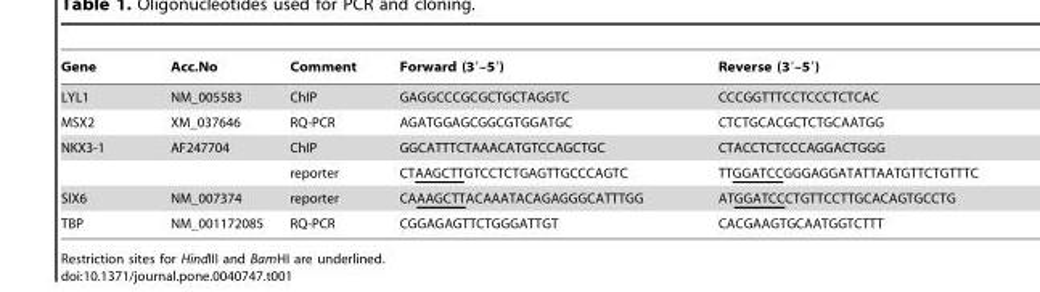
<table><thead><tr><td>Gene</td><td>Acc.No</td><td>Comment</td><td>Forward (3′–5′)</td><td>Reverse (3′–5′)</td></tr></thead><tbody><tr><td>LYL1</td><td>NM_005583</td><td>ChIP</td><td>GAGGCCCGCGCTGCTAGGTC</td><td>CCCGGTTTCCTCCCTCTCAC</td></tr><tr><td>MSX2</td><td>XM_037646</td><td>RQ-PCR</td><td>AGATGGAGCGGCGTGGATGC</td><td>CTCTGCACGCTCTGCAATGG</td></tr><tr><td rowspan="2">NKX3-1</td><td>AF247704</td><td>ChIP</td><td>GGCATTTCTAAACATGTCCAGCTGC</td><td>CTACCTCTCCCAGGACTGGG</td></tr><tr><td></td><td>reporter</td><td>CTAAGCTTGTCCTCTGAGTTGCCCAGTC</td><td>TTGGATCCGGGAGGATATTAATGTTCTGTTTC</td></tr><tr><td>SIX6</td><td>NM_007374</td><td>reporter</td><td>CAAAGCTTACAAATACAGAGGGCATTTGG</td><td>ATGGATCCCTGTTCCTTGCACAGTGCCTG</td></tr><tr><td>TBP</td><td>NM_001172085</td><td>RQ-PCR</td><td>CGGAGAGTTCTGGGATTGT</td><td>CACGAAGTGCAATGGTCTTT</td></tr></tbody></table>